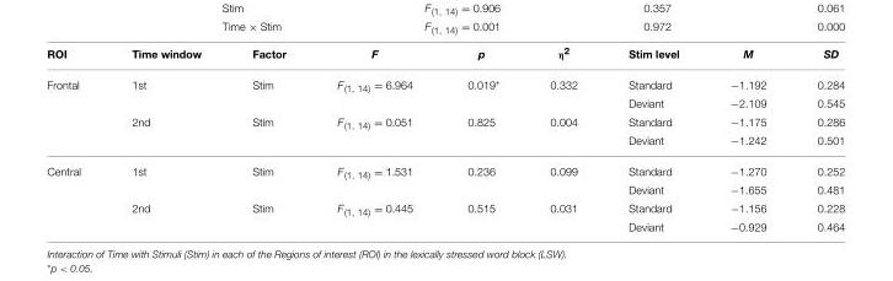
<table><thead><tr><td>ROI</td><td>Time window</td><td>Factor</td><td>F</td><td>p</td><td>η<sup>2</sup></td><td>Stim level</td><td>M</td><td>SD</td></tr></thead><tbody><tr><td rowspan="4">Frontal</td><td>1st</td><td>Stim</td><td>F<sub>(1, 14)</sub> = 6.964</td><td>0.019*</td><td>0.332</td><td>Standard</td><td>−1.192</td><td>0.284</td></tr><tr><td></td><td></td><td></td><td></td><td></td><td>Deviant</td><td>−2.109</td><td>0.545</td></tr><tr><td>2nd</td><td>Stim</td><td>F<sub>(1, 14)</sub> = 0.051</td><td>0.825</td><td>0.004</td><td>Standard</td><td>−1.175</td><td>0.286</td></tr><tr><td></td><td></td><td></td><td></td><td></td><td>Deviant</td><td>−1.242</td><td>0.501</td></tr><tr><td rowspan="4">Central</td><td>1st</td><td>Stim</td><td>F<sub>(1, 14)</sub> = 1.531</td><td>0.236</td><td>0.099</td><td>Standard</td><td>−1.270</td><td>0.252</td></tr><tr><td></td><td></td><td></td><td></td><td></td><td>Deviant</td><td>−1.655</td><td>0.481</td></tr><tr><td>2nd</td><td>Stim</td><td>F<sub>(1, 14)</sub> = 0.445</td><td>0.515</td><td>0.031</td><td>Standard</td><td>−1.156</td><td>0.228</td></tr><tr><td></td><td></td><td></td><td></td><td></td><td>Deviant</td><td>−0.929</td><td>0.464</td></tr></tbody></table>